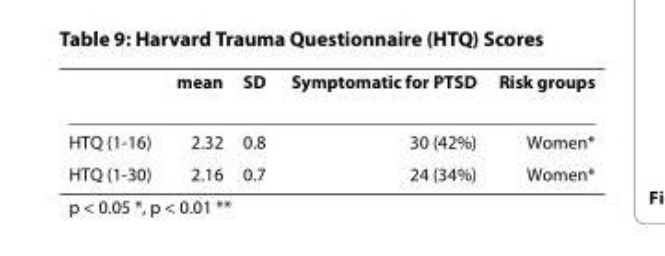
<table><thead><tr><td></td><td>mean</td><td>SD</td><td>Symptomatic for PTSD</td><td>Risk groups</td></tr></thead><tbody><tr><td>HTQ (1-16)</td><td>2.32</td><td>0.8</td><td>30 (42%)</td><td>Women*</td></tr><tr><td>HTQ (1-30)</td><td>2.16</td><td>0.7</td><td>24 (34%)</td><td>Women*</td></tr></tbody></table>